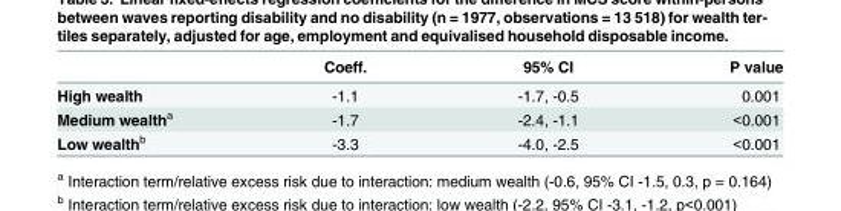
<table><thead><tr><td></td><td>Coeff.</td><td>95% CI</td><td>P value</td></tr></thead><tbody><tr><td>High wealth</td><td>-1.1</td><td>-1.7, -0.5</td><td>0.001</td></tr><tr><td>Medium wealth<sup>a</sup></td><td>-1.7</td><td>-2.4, -1.1</td><td>&lt;0.001</td></tr><tr><td>Low wealth<sup>b</sup></td><td>-3.3</td><td>-4.0, -2.5</td><td>&lt;0.001</td></tr></tbody></table>